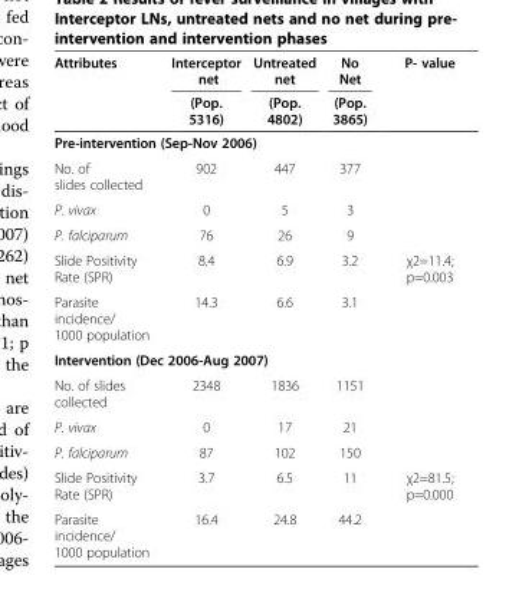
<table><thead><tr><td rowspan="2">Attributes</td><td rowspan="2">Interceptor net (Pop. 5316)</td><td rowspan="2">Untreated net (Pop. 4802)</td><td rowspan="2">No Net (Pop. 3865)</td><td rowspan="2">P- value</td></tr><tr></tr></thead><tbody><tr><td colspan="5">Pre-intervention (Sep-Nov 2006)</td></tr><tr><td>No. of slides collected</td><td>902</td><td>447</td><td>377</td><td></td></tr><tr><td>P. vivax</td><td>0</td><td>5</td><td>3</td><td></td></tr><tr><td>P. falciparum</td><td>76</td><td>26</td><td>9</td><td></td></tr><tr><td>Slide Positivity Rate (SPR)</td><td>8.4</td><td>6.9</td><td>3.2</td><td>χ2=11.4; p=0.003</td></tr><tr><td>Parasite incidence/ 1000 population</td><td>14.3</td><td>6.6</td><td>3.1</td><td></td></tr><tr><td colspan="5">Intervention (Dec 2006-Aug 2007)</td></tr><tr><td>No. of slides collected</td><td>2348</td><td>1836</td><td>1151</td><td></td></tr><tr><td>P. vivax</td><td>0</td><td>17</td><td>21</td><td></td></tr><tr><td>P. falciparum</td><td>87</td><td>102</td><td>150</td><td></td></tr><tr><td>Slide Positivity Rate (SPR)</td><td>3.7</td><td>6.5</td><td>11</td><td>χ2=81.5; p=0.000</td></tr><tr><td>Parasite incidence/ 1000 population</td><td>16.4</td><td>24.8</td><td>44.2</td><td></td></tr></tbody></table>